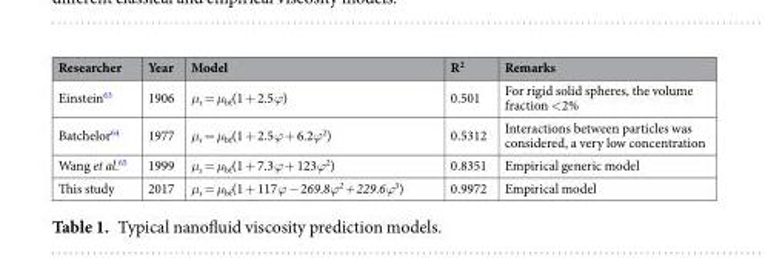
<table><thead><tr><td>Researcher</td><td>Year</td><td>Model</td><td>R<sup>2</sup></td><td>Remarks</td></tr></thead><tbody><tr><td>Einstein<sup>63</sup></td><td>1906</td><td>μ<sub>s</sub> = μ<sub>bf</sub>(1 + 2.5ϕ)</td><td>0.501</td><td>For rigid solid spheres, the volume fraction &lt;2%</td></tr><tr><td>Batchelor<sup>64</sup></td><td>1977</td><td>μ<sub>s</sub> = μ<sub>bf</sub>(1 + 2.5ϕ + 6.2ϕ<sup>2</sup>)</td><td>0.5312</td><td>Interactions between particles was considered, a very low concentration</td></tr><tr><td>Wang et al.<sup>65</sup></td><td>1999</td><td>μ<sub>s</sub> = μ<sub>bf</sub>(1 + 7.3ϕ + 123ϕ<sup>2</sup>)</td><td>0.8351</td><td>Empirical generic model</td></tr><tr><td>This study</td><td>2017</td><td>μ<sub>s</sub> = μ<sub>bf</sub>(1 + 117ϕ − 269.8ϕ<sup>2</sup> + 229.6ϕ<sup>3</sup>)</td><td>0.9972</td><td>Empirical model</td></tr></tbody></table>